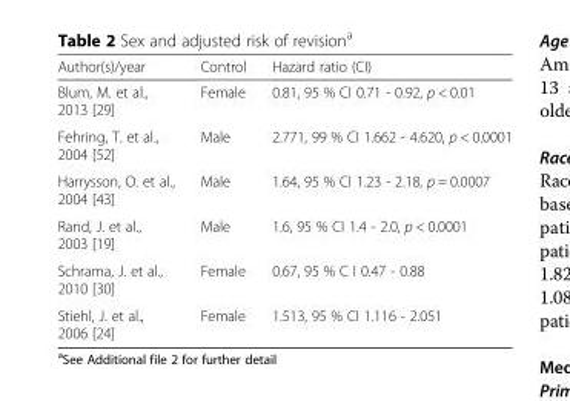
<table><thead><tr><td>Author(s)/year</td><td>Control</td><td>Hazard ratio (CI)</td></tr></thead><tbody><tr><td>Blum, M. et al., 2013 [29]</td><td>Female</td><td>0.81, 95 % CI 0.71 - 0.92, p &lt; 0.01</td></tr><tr><td>Fehring, T. et al., 2004 [52]</td><td>Male</td><td>2.771, 99 % CI 1.662 - 4.620, p &lt; 0.0001</td></tr><tr><td>Harrysson, O. et al., 2004 [43]</td><td>Male</td><td>1.64, 95 % CI 1.23 - 2.18, p = 0.0007</td></tr><tr><td>Rand, J. et al., 2003 [19]</td><td>Male</td><td>1.6, 95 % CI 1.4 - 2.0, p &lt; 0.0001</td></tr><tr><td>Schrama, J. et al., 2010 [30]</td><td>Female</td><td>0.67, 95 % C I 0.47 - 0.88</td></tr><tr><td>Stiehl, J. et al., 2006 [24]</td><td>Female</td><td>1.513, 95 % CI 1.116 - 2.051</td></tr></tbody></table>